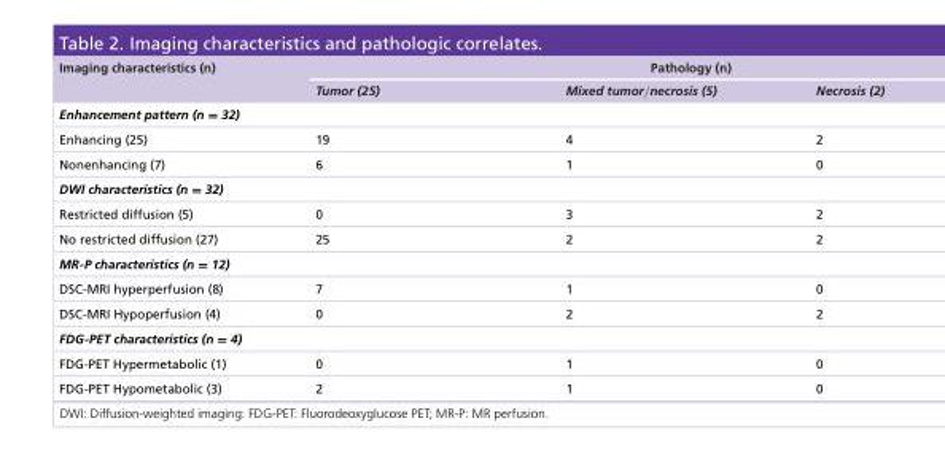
<table><thead><tr><td rowspan="2">Imaging characteristics (n)</td><td colspan="3">Pathology (n)</td></tr><tr><td>Tumor (25)</td><td>Mixed tumor/necrosis (5)</td><td>Necrosis (2)</td></tr></thead><tbody><tr><td colspan="4">Enhancement pattern (n = 32)</td></tr><tr><td>Enhancing (25)</td><td>19</td><td>4</td><td>2</td></tr><tr><td>Nonenhancing (7)</td><td>6</td><td>1</td><td>0</td></tr><tr><td colspan="4">DWI characteristics (n = 32)</td></tr><tr><td>Restricted diffusion (5)</td><td>0</td><td>3</td><td>2</td></tr><tr><td>No restricted diffusion (27)</td><td>25</td><td>2</td><td>2</td></tr><tr><td colspan="4">MR-P characteristics (n = 12)</td></tr><tr><td>DSC-MRI hyperperfusion (8)</td><td>7</td><td>1</td><td>0</td></tr><tr><td>DSC-MRI Hypoperfusion (4)</td><td>0</td><td>2</td><td>2</td></tr><tr><td colspan="4">FDG-PET characteristics (n = 4)</td></tr><tr><td>FDG-PET Hypermetabolic (1)</td><td>0</td><td>1</td><td>0</td></tr><tr><td>FDG-PET Hypometabolic (3)</td><td>2</td><td>1</td><td>0</td></tr></tbody></table>